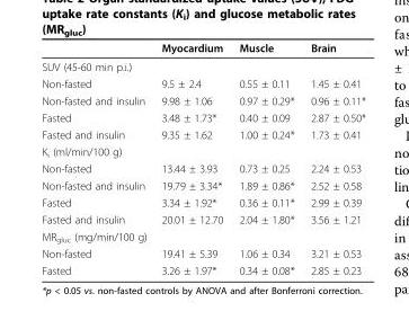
<table><thead><tr><td></td><td>Myocardium</td><td>Muscle</td><td>Brain</td></tr></thead><tbody><tr><td colspan="4">SUV (45-60 min p.i.)</td></tr><tr><td>Non-fasted</td><td>9.5 ± 2.4</td><td>0.55 ± 0.11</td><td>1.45 ± 0.41</td></tr><tr><td>Non-fasted and insulin</td><td>9.98 ± 1.06</td><td>0.97 ± 0.29*</td><td>0.96 ± 0.11*</td></tr><tr><td>Fasted</td><td>3.48 ± 1.73*</td><td>0.40 ± 0.09</td><td>2.87 ± 0.50*</td></tr><tr><td>Fasted and insulin</td><td>9.35 ± 1.62</td><td>1.00 ± 0.24*</td><td>1.73 ± 0.41</td></tr><tr><td colspan="4">K<sub>i</sub> (ml/min/100 g)</td></tr><tr><td>Non-fasted</td><td>13.44 ± 3.93</td><td>0.73 ± 0.25</td><td>2.24 ± 0.53</td></tr><tr><td>Non-fasted and insulin</td><td>19.79 ± 3.34*</td><td>1.89 ± 0.86*</td><td>2.52 ± 0.58</td></tr><tr><td>Fasted</td><td>3.34 ± 1.92*</td><td>0.36 ± 0.11*</td><td>2.99 ± 0.39</td></tr><tr><td>Fasted and insulin</td><td>20.01 ± 12.70</td><td>2.04 ± 1.80*</td><td>3.56 ± 1.21</td></tr><tr><td colspan="4">MR<sub>gluc</sub> (mg/min/100 g)</td></tr><tr><td>Non-fasted</td><td>19.41 ± 5.39</td><td>1.06 ± 0.34</td><td>3.21 ± 0.53</td></tr><tr><td>Fasted</td><td>3.26 ± 1.97*</td><td>0.34 ± 0.08*</td><td>2.85 ± 0.23</td></tr></tbody></table>